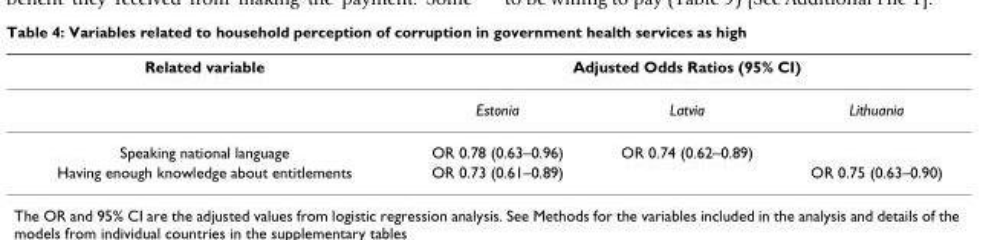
<table><thead><tr><td rowspan="2">Related variable</td><td colspan="3">Adjusted Odds Ratios (95% CI)</td></tr><tr><td>Estonia</td><td>Latvia</td><td>Lithuania</td></tr></thead><tbody><tr><td>Speaking national language</td><td>OR 0.78 (0.63–0.96)</td><td>OR 0.74 (0.62–0.89)</td><td></td></tr><tr><td>Having enough knowledge about entitlements</td><td>OR 0.73 (0.61–0.89)</td><td></td><td>OR 0.75 (0.63–0.90)</td></tr></tbody></table>